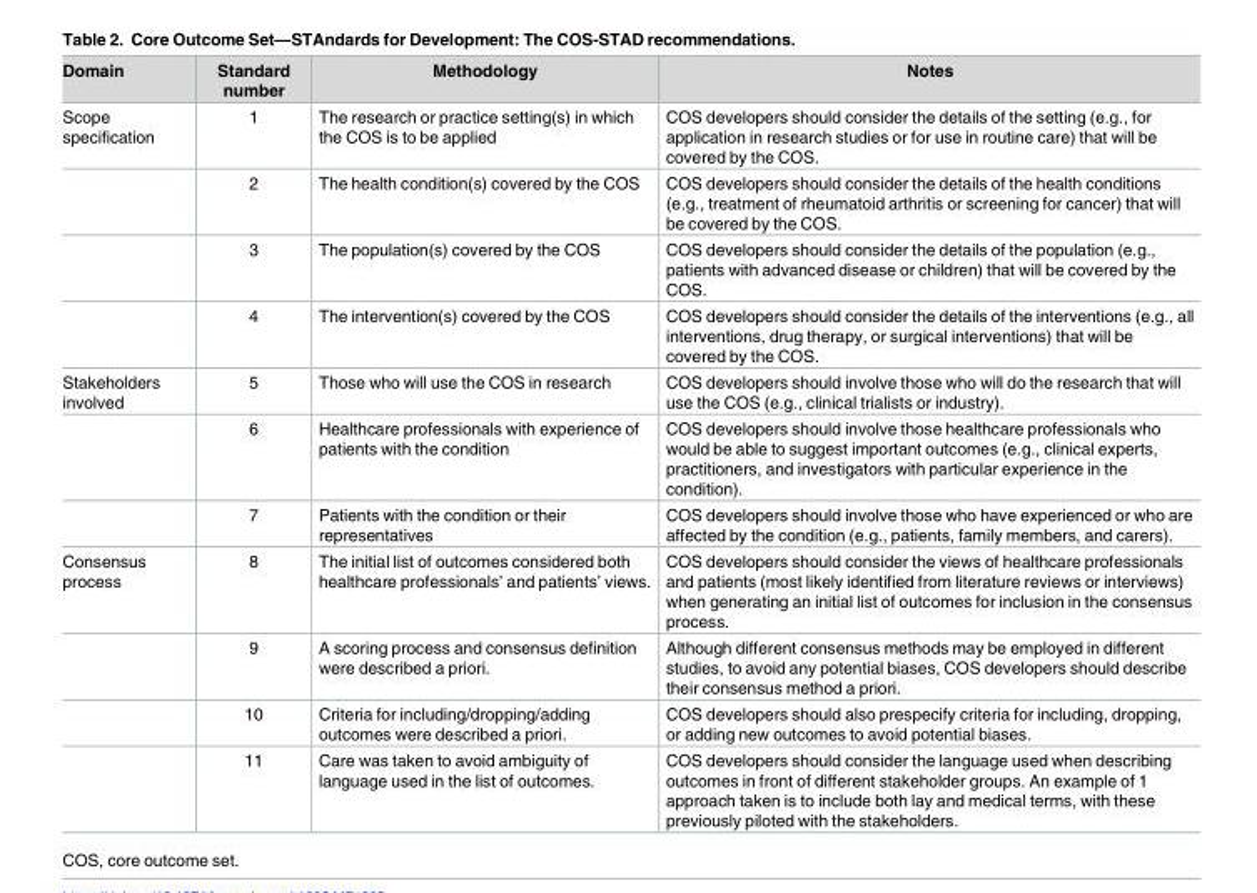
<table><thead><tr><td>Domain</td><td>Standard number</td><td>Methodology</td><td>Notes</td></tr></thead><tbody><tr><td rowspan="4">Scope specification</td><td>1</td><td>The research or practice setting(s) in which the COS is to be applied</td><td>COS developers should consider the details of the setting (e.g., for application in research studies or for use in routine care) that will be covered by the COS.</td></tr><tr><td>2</td><td>The health condition(s) covered by the COS</td><td>COS developers should consider the details of the health conditions (e.g., treatment of rheumatoid arthritis or screening for cancer) that will be covered by the COS.</td></tr><tr><td>3</td><td>The population(s) covered by the COS</td><td>COS developers should consider the details of the population (e.g., patients with advanced disease or children) that will be covered by the COS.</td></tr><tr><td>4</td><td>The intervention(s) covered by the COS</td><td>COS developers should consider the details of the interventions (e.g., all interventions, drug therapy, or surgical interventions) that will be covered by the COS.</td></tr><tr><td rowspan="3">Stakeholders involved</td><td>5</td><td>Those who will use the COS in research</td><td>COS developers should involve those who will do the research that will use the COS (e.g., clinical trialists or industry).</td></tr><tr><td>6</td><td>Healthcare professionals with experience of patients with the condition</td><td>COS developers should involve those healthcare professionals who would be able to suggest important outcomes (e.g., clinical experts, practitioners, and investigators with particular experience in the condition).</td></tr><tr><td>7</td><td>Patients with the condition or their representatives</td><td>COS developers should involve those who have experienced or who are affected by the condition (e.g., patients, family members, and carers).</td></tr><tr><td rowspan="4">Consensus process</td><td>8</td><td>The initial list of outcomes considered both healthcare professionals’ and patients’ views.</td><td>COS developers should consider the views of healthcare professionals and patients (most likely identified from literature reviews or interviews) when generating an initial list of outcomes for inclusion in the consensus process.</td></tr><tr><td>9</td><td>A scoring process and consensus definition were described a priori.</td><td>Although different consensus methods may be employed in different studies, to avoid any potential biases, COS developers should describe their consensus method a priori.</td></tr><tr><td>10</td><td>Criteria for including/dropping/adding outcomes were described a priori.</td><td>COS developers should also prespecify criteria for including, dropping, or adding new outcomes to avoid potential biases.</td></tr><tr><td>11</td><td>Care was taken to avoid ambiguity of language used in the list of outcomes.</td><td>COS developers should consider the language used when describing outcomes in front of different stakeholder groups. An example of 1 approach taken is to include both lay and medical terms, with these previously piloted with the stakeholders.</td></tr></tbody></table>